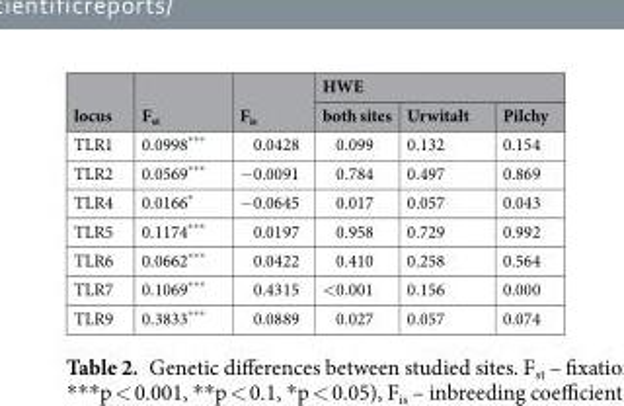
<table><thead><tr><td rowspan="2">locus</td><td rowspan="2">F<sub>st</sub></td><td rowspan="2">F<sub>is</sub></td><td colspan="3">HWE</td></tr><tr><td>both sites</td><td>Urwitałt</td><td>Pilchy</td></tr></thead><tbody><tr><td>TLR1</td><td>0.0998***</td><td>0.0428</td><td>0.099</td><td>0.132</td><td>0.154</td></tr><tr><td>TLR2</td><td>0.0569***</td><td>−0.0091</td><td>0.784</td><td>0.497</td><td>0.869</td></tr><tr><td>TLR4</td><td>0.0166*</td><td>−0.0645</td><td>0.017</td><td>0.057</td><td>0.043</td></tr><tr><td>TLR5</td><td>0.1174***</td><td>0.0197</td><td>0.958</td><td>0.729</td><td>0.992</td></tr><tr><td>TLR6</td><td>0.0662***</td><td>0.0422</td><td>0.410</td><td>0.258</td><td>0.564</td></tr><tr><td>TLR7</td><td>0.1069***</td><td>0.4315</td><td>&lt;0.001</td><td>0.156</td><td>0.000</td></tr><tr><td>TLR9</td><td>0.3833***</td><td>0.0889</td><td>0.027</td><td>0.057</td><td>0.074</td></tr></tbody></table>